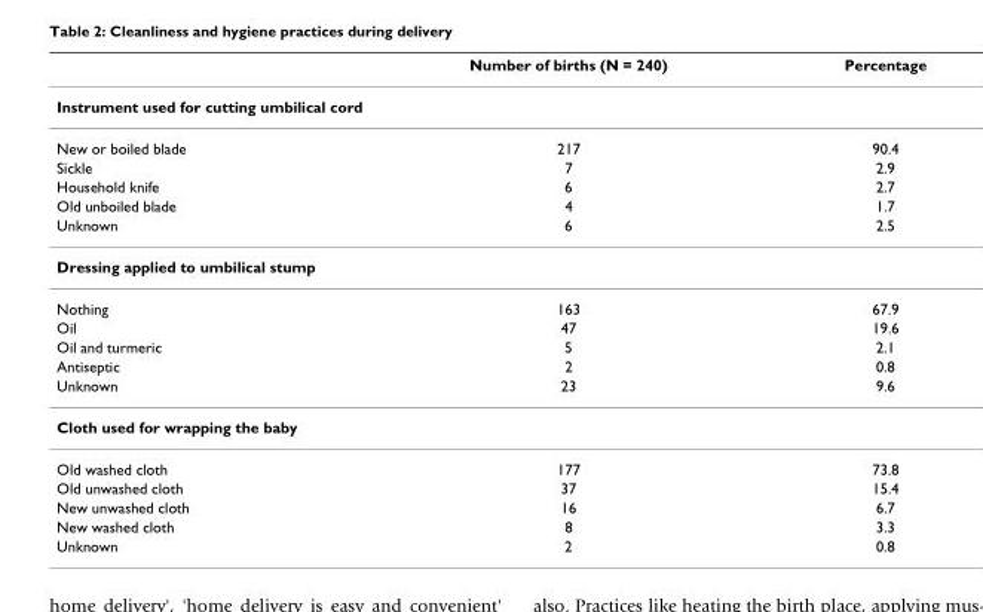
<table><thead><tr><td></td><td>Number of births (N = 240)</td><td>Percentage</td></tr></thead><tbody><tr><td colspan="3">Instrument used for cutting umbilical cord</td></tr><tr><td>New or boiled blade</td><td>217</td><td>90.4</td></tr><tr><td>Sickle</td><td>7</td><td>2.9</td></tr><tr><td>Household knife</td><td>6</td><td>2.7</td></tr><tr><td>Old unboiled blade</td><td>4</td><td>1.7</td></tr><tr><td>Unknown</td><td>6</td><td>2.5</td></tr><tr><td colspan="3">Dressing applied to umbilical stump</td></tr><tr><td>Nothing</td><td>163</td><td>67.9</td></tr><tr><td>Oil</td><td>47</td><td>19.6</td></tr><tr><td>Oil and turmeric</td><td>5</td><td>2.1</td></tr><tr><td>Antiseptic</td><td>2</td><td>0.8</td></tr><tr><td>Unknown</td><td>23</td><td>9.6</td></tr><tr><td colspan="3">Cloth used for wrapping the baby</td></tr><tr><td>Old washed cloth</td><td>177</td><td>73.8</td></tr><tr><td>Old unwashed cloth</td><td>37</td><td>15.4</td></tr><tr><td>New unwashed cloth</td><td>16</td><td>6.7</td></tr><tr><td>New washed cloth</td><td>8</td><td>3.3</td></tr><tr><td>Unknown</td><td>2</td><td>0.8</td></tr></tbody></table>